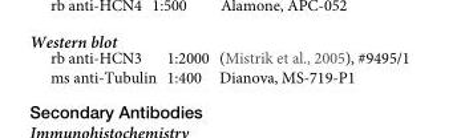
<table><tbody><tr><td>rb anti-HCN3</td><td>1:2000</td><td>(Mistrik et al., 2005), #9495/1</td></tr><tr><td>ms anti-Tubulin</td><td>1:400</td><td>Dianova, MS-719-P1</td></tr></tbody></table>